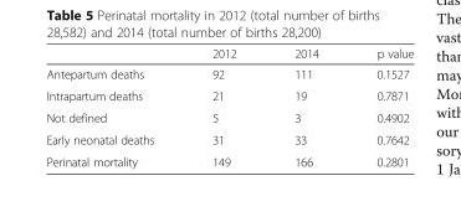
<table><thead><tr><td></td><td>2012</td><td>2014</td><td>p value</td></tr></thead><tbody><tr><td>Antepartum deaths</td><td>92</td><td>111</td><td>0.1527</td></tr><tr><td>Intrapartum deaths</td><td>21</td><td>19</td><td>0.7871</td></tr><tr><td>Not defined</td><td>5</td><td>3</td><td>0.4902</td></tr><tr><td>Early neonatal deaths</td><td>31</td><td>33</td><td>0.7642</td></tr><tr><td>Perinatal mortality</td><td>149</td><td>166</td><td>0.2801</td></tr></tbody></table>